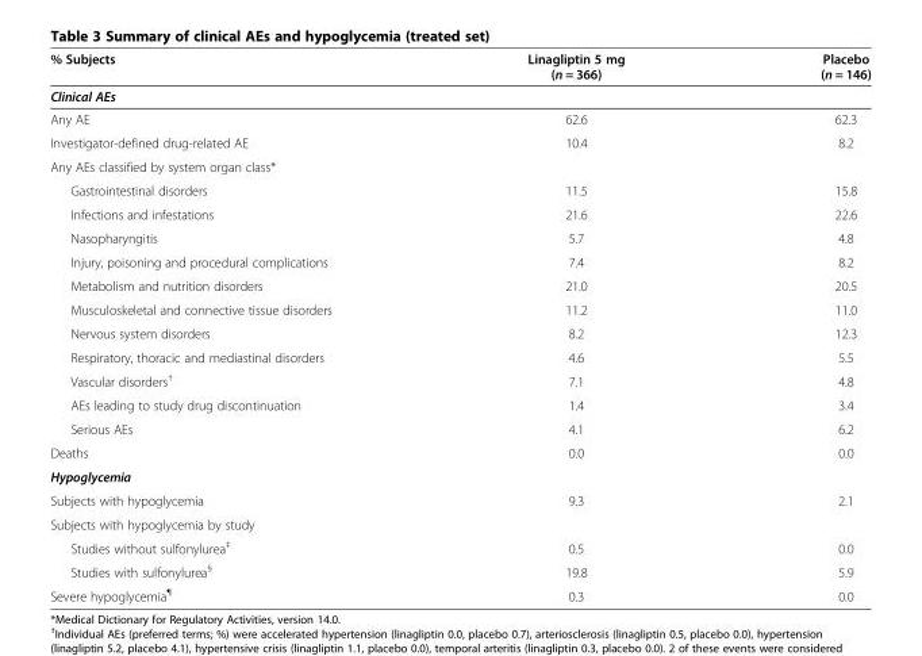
<table><thead><tr><td>% Subjects</td><td>Linagliptin 5 mg (n = 366)</td><td>Placebo (n = 146)</td></tr></thead><tbody><tr><td colspan="3">Clinical AEs</td></tr><tr><td>Any AE</td><td>62.6</td><td>62.3</td></tr><tr><td>Investigator-defined drug-related AE</td><td>10.4</td><td>8.2</td></tr><tr><td colspan="3">Any AEs classified by system organ class*</td></tr><tr><td>Gastrointestinal disorders</td><td>11.5</td><td>15.8</td></tr><tr><td>Infections and infestations</td><td>21.6</td><td>22.6</td></tr><tr><td>Nasopharyngitis</td><td>5.7</td><td>4.8</td></tr><tr><td>Injury, poisoning and procedural complications</td><td>7.4</td><td>8.2</td></tr><tr><td>Metabolism and nutrition disorders</td><td>21.0</td><td>20.5</td></tr><tr><td>Musculoskeletal and connective tissue disorders</td><td>11.2</td><td>11.0</td></tr><tr><td>Nervous system disorders</td><td>8.2</td><td>12.3</td></tr><tr><td>Respiratory, thoracic and mediastinal disorders</td><td>4.6</td><td>5.5</td></tr><tr><td>Vascular disorders<sup>†</sup></td><td>7.1</td><td>4.8</td></tr><tr><td>AEs leading to study drug discontinuation</td><td>1.4</td><td>3.4</td></tr><tr><td>Serious AEs</td><td>4.1</td><td>6.2</td></tr><tr><td>Deaths</td><td>0.0</td><td>0.0</td></tr><tr><td colspan="3">Hypoglycemia</td></tr><tr><td>Subjects with hypoglycemia</td><td>9.3</td><td>2.1</td></tr><tr><td colspan="3">Subjects with hypoglycemia by study</td></tr><tr><td>Studies without sulfonylurea<sup>‡</sup></td><td>0.5</td><td>0.0</td></tr><tr><td>Studies with sulfonylurea<sup>§</sup></td><td>19.8</td><td>5.9</td></tr><tr><td>Severe hypoglycemia<sup>¶</sup></td><td>0.3</td><td>0.0</td></tr></tbody></table>